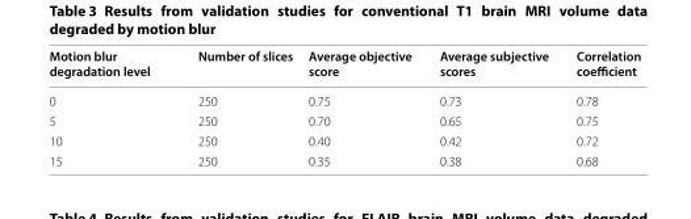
<table><thead><tr><td>Motion blur degradation level</td><td>Number of slices</td><td>Average objective score</td><td>Average subjective scores</td><td>Correlation coefficient</td></tr></thead><tbody><tr><td>0</td><td>250</td><td>0.75</td><td>0.73</td><td>0.78</td></tr><tr><td>5</td><td>250</td><td>0.70</td><td>0.65</td><td>0.75</td></tr><tr><td>10</td><td>250</td><td>0.40</td><td>0.42</td><td>0.72</td></tr><tr><td>15</td><td>250</td><td>0.35</td><td>0.38</td><td>0.68</td></tr></tbody></table>